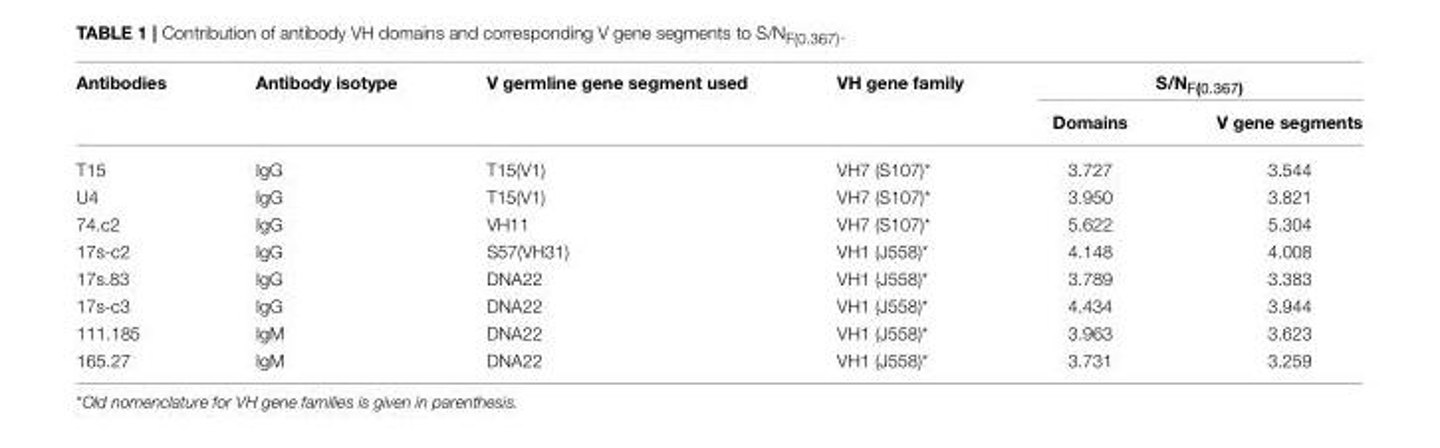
<table><thead><tr><td rowspan="2">Antibodies</td><td rowspan="2">Antibody isotype</td><td rowspan="2">V germline gene segment used</td><td rowspan="2">VH gene family</td><td colspan="2">S/N<sub>F(0.367)</sub></td></tr><tr><td>Domains</td><td>V gene segments</td></tr></thead><tbody><tr><td>T15</td><td>IgG</td><td>T15(V1)</td><td>VH7 (S107)*</td><td>3.727</td><td>3.544</td></tr><tr><td>U4</td><td>IgG</td><td>T15(V1)</td><td>VH7 (S107)*</td><td>3.950</td><td>3.821</td></tr><tr><td>74.c2</td><td>IgG</td><td>VH11</td><td>VH7 (S107)*</td><td>5.622</td><td>5.304</td></tr><tr><td>17s-c2</td><td>IgG</td><td>S57(VH31)</td><td>VH1 (J558)*</td><td>4.148</td><td>4.008</td></tr><tr><td>17s.83</td><td>IgG</td><td>DNA22</td><td>VH1 (J558)*</td><td>3.789</td><td>3.383</td></tr><tr><td>17s-c3</td><td>IgG</td><td>DNA22</td><td>VH1 (J558)*</td><td>4.434</td><td>3.944</td></tr><tr><td>111.185</td><td>IgM</td><td>DNA22</td><td>VH1 (J558)*</td><td>3.963</td><td>3.623</td></tr><tr><td>165.27</td><td>IgM</td><td>DNA22</td><td>VH1 (J558)*</td><td>3.731</td><td>3.259</td></tr></tbody></table>